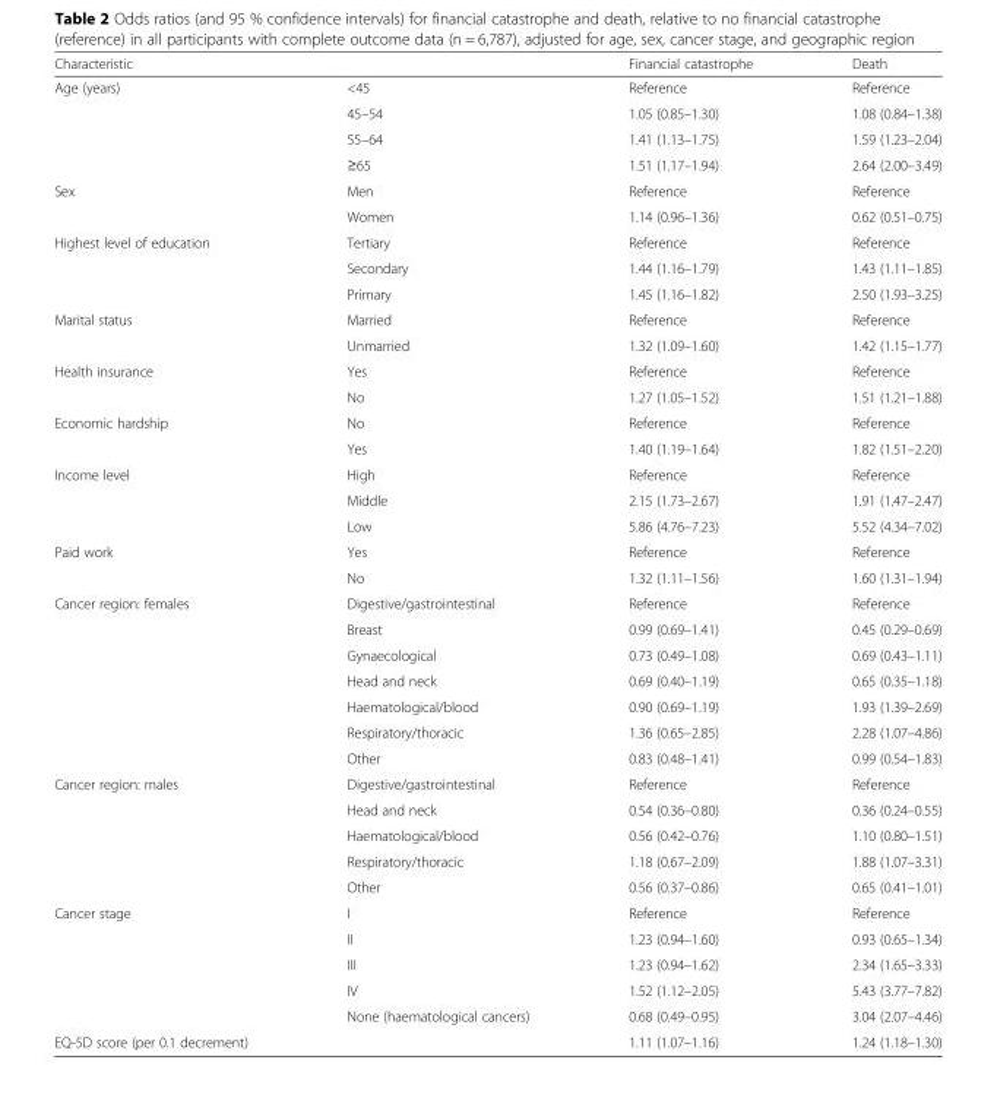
<table><thead><tr><td>Characteristic</td><td></td><td>Financial catastrophe</td><td>Death</td></tr></thead><tbody><tr><td rowspan="4">Age (years)</td><td>&lt;45</td><td>Reference</td><td>Reference</td></tr><tr><td>45–54</td><td>1.05 (0.85–1.30)</td><td>1.08 (0.84–1.38)</td></tr><tr><td>55–64</td><td>1.41 (1.13–1.75)</td><td>1.59 (1.23–2.04)</td></tr><tr><td>≥65</td><td>1.51 (1.17–1.94)</td><td>2.64 (2.00–3.49)</td></tr><tr><td rowspan="2">Sex</td><td>Men</td><td>Reference</td><td>Reference</td></tr><tr><td>Women</td><td>1.14 (0.96–1.36)</td><td>0.62 (0.51–0.75)</td></tr><tr><td rowspan="3">Highest level of education</td><td>Tertiary</td><td>Reference</td><td>Reference</td></tr><tr><td>Secondary</td><td>1.44 (1.16–1.79)</td><td>1.43 (1.11–1.85)</td></tr><tr><td>Primary</td><td>1.45 (1.16–1.82)</td><td>2.50 (1.93–3.25)</td></tr><tr><td rowspan="2">Marital status</td><td>Married</td><td>Reference</td><td>Reference</td></tr><tr><td>Unmarried</td><td>1.32 (1.09–1.60)</td><td>1.42 (1.15–1.77)</td></tr><tr><td rowspan="2">Health insurance</td><td>Yes</td><td>Reference</td><td>Reference</td></tr><tr><td>No</td><td>1.27 (1.05–1.52)</td><td>1.51 (1.21–1.88)</td></tr><tr><td rowspan="2">Economic hardship</td><td>No</td><td>Reference</td><td>Reference</td></tr><tr><td>Yes</td><td>1.40 (1.19–1.64)</td><td>1.82 (1.51–2.20)</td></tr><tr><td rowspan="3">Income level</td><td>High</td><td>Reference</td><td>Reference</td></tr><tr><td>Middle</td><td>2.15 (1.73–2.67)</td><td>1.91 (1.47–2.47)</td></tr><tr><td>Low</td><td>5.86 (4.76–7.23)</td><td>5.52 (4.34–7.02)</td></tr><tr><td rowspan="2">Paid work</td><td>Yes</td><td>Reference</td><td>Reference</td></tr><tr><td>No</td><td>1.32 (1.11–1.56)</td><td>1.60 (1.31–1.94)</td></tr><tr><td rowspan="7">Cancer region: females</td><td>Digestive/gastrointestinal</td><td>Reference</td><td>Reference</td></tr><tr><td>Breast</td><td>0.99 (0.69–1.41)</td><td>0.45 (0.29–0.69)</td></tr><tr><td>Gynaecological</td><td>0.73 (0.49–1.08)</td><td>0.69 (0.43–1.11)</td></tr><tr><td>Head and neck</td><td>0.69 (0.40–1.19)</td><td>0.65 (0.35–1.18)</td></tr><tr><td>Haematological/blood</td><td>0.90 (0.69–1.19)</td><td>1.93 (1.39–2.69)</td></tr><tr><td>Respiratory/thoracic</td><td>1.36 (0.65–2.85)</td><td>2.28 (1.07–4.86)</td></tr><tr><td>Other</td><td>0.83 (0.48–1.41)</td><td>0.99 (0.54–1.83)</td></tr><tr><td rowspan="5">Cancer region: males</td><td>Digestive/gastrointestinal</td><td>Reference</td><td>Reference</td></tr><tr><td>Head and neck</td><td>0.54 (0.36–0.80)</td><td>0.36 (0.24–0.55)</td></tr><tr><td>Haematological/blood</td><td>0.56 (0.42–0.76)</td><td>1.10 (0.80–1.51)</td></tr><tr><td>Respiratory/thoracic</td><td>1.18 (0.67–2.09)</td><td>1.88 (1.07–3.31)</td></tr><tr><td>Other</td><td>0.56 (0.37–0.86)</td><td>0.65 (0.41–1.01)</td></tr><tr><td rowspan="5">Cancer stage</td><td>I</td><td>Reference</td><td>Reference</td></tr><tr><td>II</td><td>1.23 (0.94–1.60)</td><td>0.93 (0.65–1.34)</td></tr><tr><td>III</td><td>1.23 (0.94–1.62)</td><td>2.34 (1.65–3.33)</td></tr><tr><td>IV</td><td>1.52 (1.12–2.05)</td><td>5.43 (3.77–7.82)</td></tr><tr><td>None (haematological cancers)</td><td>0.68 (0.49–0.95)</td><td>3.04 (2.07–4.46)</td></tr><tr><td>EQ-5D score (per 0.1 decrement)</td><td></td><td>1.11 (1.07–1.16)</td><td>1.24 (1.18–1.30)</td></tr></tbody></table>